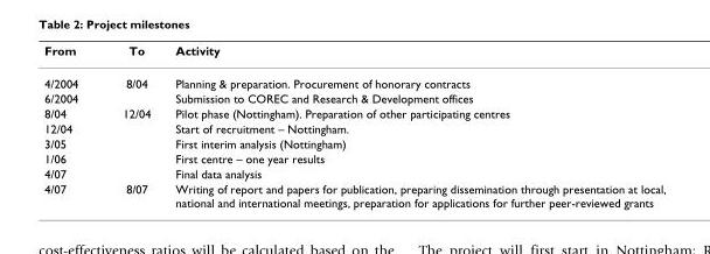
<table><thead><tr><td>From</td><td>To</td><td>Activity</td></tr></thead><tbody><tr><td>4/2004</td><td>8/04</td><td>Planning &amp; preparation. Procurement of honorary contracts</td></tr><tr><td>6/2004</td><td></td><td>Submission to COREC and Research &amp; Development offices</td></tr><tr><td>8/04</td><td>12/04</td><td>Pilot phase (Nottingham). Preparation of other participating centres</td></tr><tr><td>12/04</td><td></td><td>Start of recruitment – Nottingham.</td></tr><tr><td>3/05</td><td></td><td>First interim analysis (Nottingham)</td></tr><tr><td>1/06</td><td></td><td>First centre – one year results</td></tr><tr><td>4/07</td><td></td><td>Final data analysis</td></tr><tr><td>4/07</td><td>8/07</td><td>Writing of report and papers for publication, preparing dissemination through presentation at local, national and international meetings, preparation for applications for further peer-reviewed grants</td></tr></tbody></table>